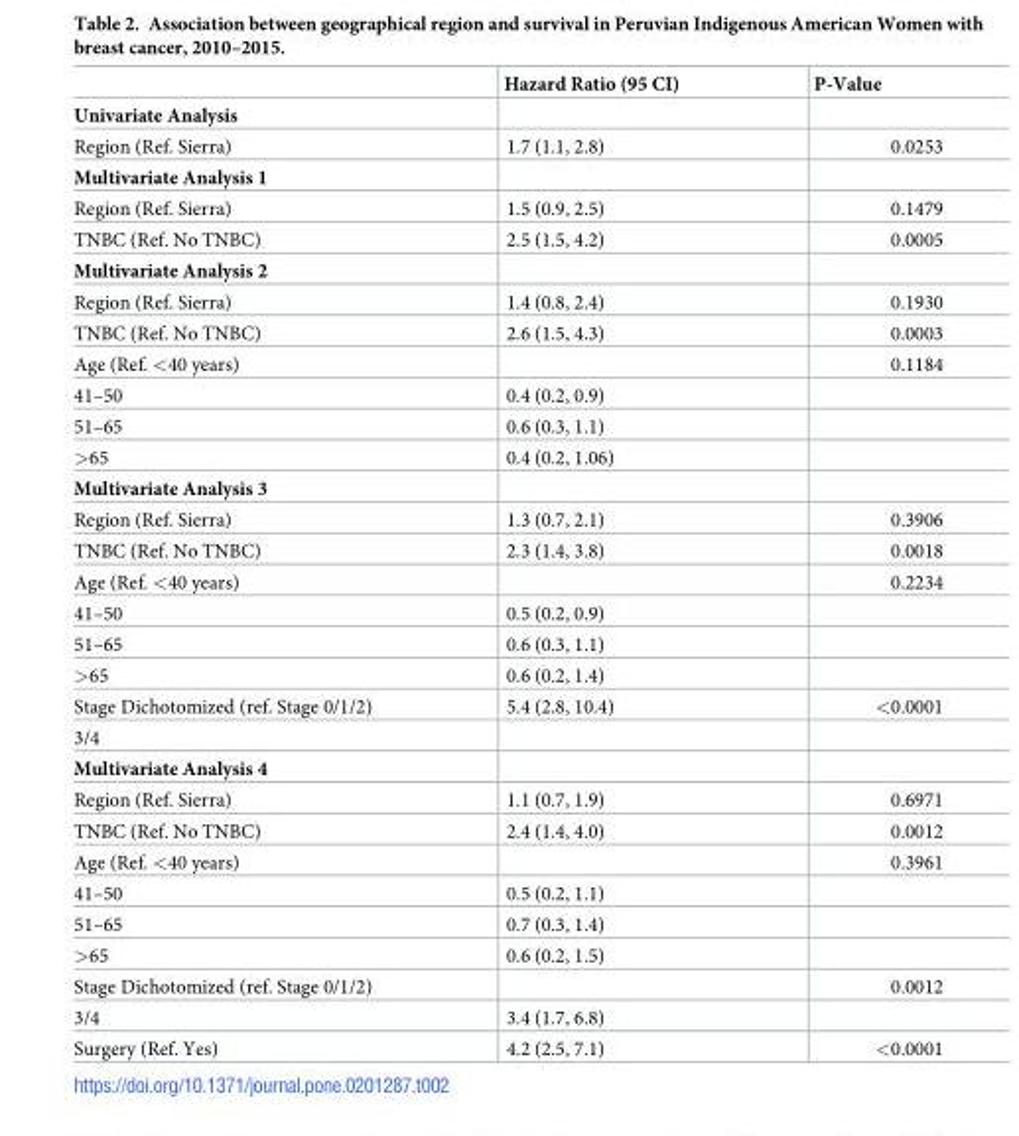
<table><thead><tr><td></td><td>Hazard Ratio (95 CI)</td><td>P-Value</td></tr></thead><tbody><tr><td colspan="3">Univariate Analysis</td></tr><tr><td>Region (Ref. Sierra)</td><td>1.7 (1.1, 2.8)</td><td>0.0253</td></tr><tr><td colspan="3">Multivariate Analysis 1</td></tr><tr><td>Region (Ref. Sierra)</td><td>1.5 (0.9, 2.5)</td><td>0.1479</td></tr><tr><td>TNBC (Ref. No TNBC)</td><td>2.5 (1.5, 4.2)</td><td>0.0005</td></tr><tr><td colspan="3">Multivariate Analysis 2</td></tr><tr><td>Region (Ref. Sierra)</td><td>1.4 (0.8, 2.4)</td><td>0.1930</td></tr><tr><td>TNBC (Ref. No TNBC)</td><td>2.6 (1.5, 4.3)</td><td>0.0003</td></tr><tr><td>Age (Ref. &lt;40 years)</td><td></td><td>0.1184</td></tr><tr><td>41–50</td><td>0.4 (0.2, 0.9)</td><td></td></tr><tr><td>51–65</td><td>0.6 (0.3, 1.1)</td><td></td></tr><tr><td>&gt;65</td><td>0.4 (0.2, 1.06)</td><td></td></tr><tr><td colspan="3">Multivariate Analysis 3</td></tr><tr><td>Region (Ref. Sierra)</td><td>1.3 (0.7, 2.1)</td><td>0.3906</td></tr><tr><td>TNBC (Ref. No TNBC)</td><td>2.3 (1.4, 3.8)</td><td>0.0018</td></tr><tr><td>Age (Ref. &lt;40 years)</td><td></td><td>0.2234</td></tr><tr><td>41–50</td><td>0.5 (0.2, 0.9)</td><td></td></tr><tr><td>51–65</td><td>0.6 (0.3, 1.1)</td><td></td></tr><tr><td>&gt;65</td><td>0.6 (0.2, 1.4)</td><td></td></tr><tr><td>Stage Dichotomized (ref. Stage 0/1/2)</td><td>5.4 (2.8, 10.4)</td><td>&lt;0.0001</td></tr><tr><td colspan="3">3/4</td></tr><tr><td colspan="3">Multivariate Analysis 4</td></tr><tr><td>Region (Ref. Sierra)</td><td>1.1 (0.7, 1.9)</td><td>0.6971</td></tr><tr><td>TNBC (Ref. No TNBC)</td><td>2.4 (1.4, 4.0)</td><td>0.0012</td></tr><tr><td>Age (Ref. &lt;40 years)</td><td></td><td>0.3961</td></tr><tr><td>41–50</td><td>0.5 (0.2, 1.1)</td><td></td></tr><tr><td>51–65</td><td>0.7 (0.3, 1.4)</td><td></td></tr><tr><td>&gt;65</td><td>0.6 (0.2, 1.5)</td><td></td></tr><tr><td>Stage Dichotomized (ref. Stage 0/1/2)</td><td></td><td>0.0012</td></tr><tr><td>3/4</td><td>3.4 (1.7, 6.8)</td><td></td></tr><tr><td>Surgery (Ref. Yes)</td><td>4.2 (2.5, 7.1)</td><td>&lt;0.0001</td></tr></tbody></table>